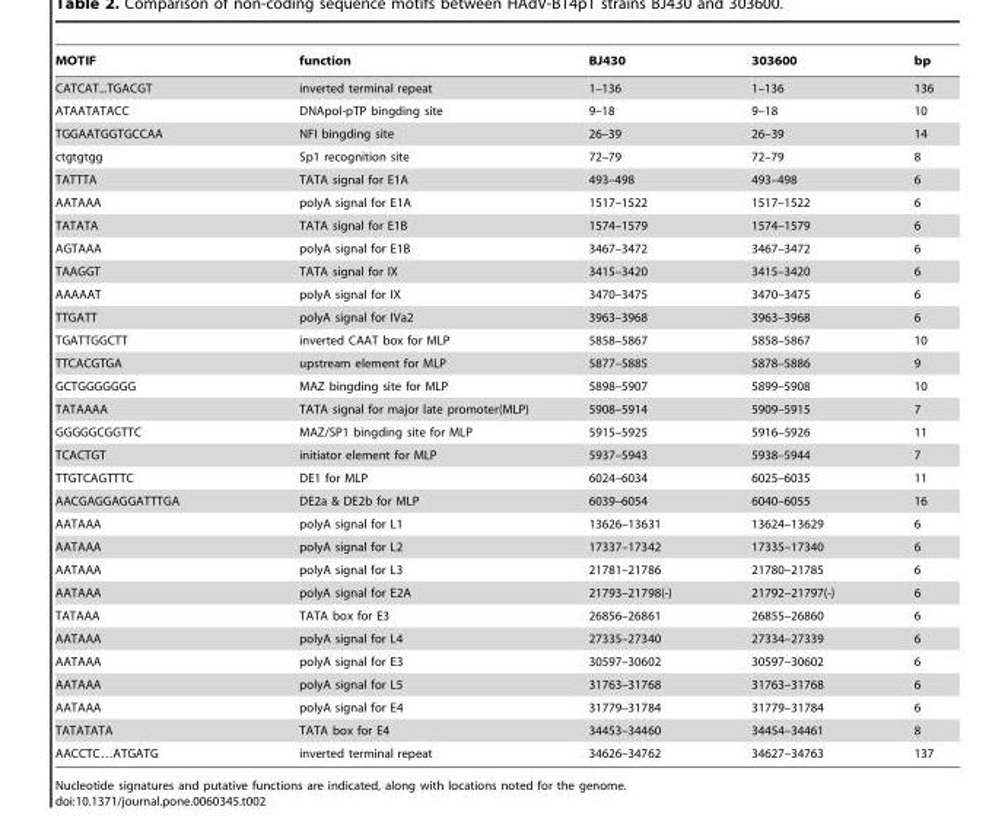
<table><thead><tr><td>MOTIF</td><td>function</td><td>BJ430</td><td>303600</td><td>bp</td></tr></thead><tbody><tr><td>CATCAT...TGACGT</td><td>inverted terminal repeat</td><td>1–136</td><td>1–136</td><td>136</td></tr><tr><td>ATAATATACC</td><td>DNApol-pTP bingding site</td><td>9–18</td><td>9–18</td><td>10</td></tr><tr><td>TGGAATGGTGCCAA</td><td>NFI bingding site</td><td>26–39</td><td>26–39</td><td>14</td></tr><tr><td>ctgtgtgg</td><td>Sp1 recognition site</td><td>72–79</td><td>72–79</td><td>8</td></tr><tr><td>TATTTA</td><td>TATA signal for E1A</td><td>493–498</td><td>493–498</td><td>6</td></tr><tr><td>AATAAA</td><td>polyA signal for E1A</td><td>1517–1522</td><td>1517–1522</td><td>6</td></tr><tr><td>TATATA</td><td>TATA signal for E1B</td><td>1574–1579</td><td>1574–1579</td><td>6</td></tr><tr><td>AGTAAA</td><td>polyA signal for E1B</td><td>3467–3472</td><td>3467–3472</td><td>6</td></tr><tr><td>TAAGGT</td><td>TATA signal for IX</td><td>3415–3420</td><td>3415–3420</td><td>6</td></tr><tr><td>AAAAAT</td><td>polyA signal for IX</td><td>3470–3475</td><td>3470–3475</td><td>6</td></tr><tr><td>TTGATT</td><td>polyA signal for IVa2</td><td>3963–3968</td><td>3963–3968</td><td>6</td></tr><tr><td>TGATTGGCTT</td><td>inverted CAAT box for MLP</td><td>5858–5867</td><td>5858–5867</td><td>10</td></tr><tr><td>TTCACGTGA</td><td>upstream element for MLP</td><td>5877–5885</td><td>5878–5886</td><td>9</td></tr><tr><td>GCTGGGGGGG</td><td>MAZ bingding site for MLP</td><td>5898–5907</td><td>5899–5908</td><td>10</td></tr><tr><td>TATAAAA</td><td>TATA signal for major late promoter(MLP)</td><td>5908–5914</td><td>5909–5915</td><td>7</td></tr><tr><td>GGGGGCGGTTC</td><td>MAZ/SP1 bingding site for MLP</td><td>5915–5925</td><td>5916–5926</td><td>11</td></tr><tr><td>TCACTGT</td><td>initiator element for MLP</td><td>5937–5943</td><td>5938–5944</td><td>7</td></tr><tr><td>TTGTCAGTTTC</td><td>DE1 for MLP</td><td>6024–6034</td><td>6025–6035</td><td>11</td></tr><tr><td>AACGAGGAGGATTTGA</td><td>DE2a &amp; DE2b for MLP</td><td>6039–6054</td><td>6040–6055</td><td>16</td></tr><tr><td>AATAAA</td><td>polyA signal for L1</td><td>13626–13631</td><td>13624–13629</td><td>6</td></tr><tr><td>AATAAA</td><td>polyA signal for L2</td><td>17337–17342</td><td>17335–17340</td><td>6</td></tr><tr><td>AATAAA</td><td>polyA signal for L3</td><td>21781–21786</td><td>21780–21785</td><td>6</td></tr><tr><td>AATAAA</td><td>polyA signal for E2A</td><td>21793–21798(-)</td><td>21792–21797(-)</td><td>6</td></tr><tr><td>TATAAA</td><td>TATA box for E3</td><td>26856–26861</td><td>26855–26860</td><td>6</td></tr><tr><td>AATAAA</td><td>polyA signal for L4</td><td>27335–27340</td><td>27334–27339</td><td>6</td></tr><tr><td>AATAAA</td><td>polyA signal for E3</td><td>30597–30602</td><td>30597–30602</td><td>6</td></tr><tr><td>AATAAA</td><td>polyA signal for L5</td><td>31763–31768</td><td>31763–31768</td><td>6</td></tr><tr><td>AATAAA</td><td>polyA signal for E4</td><td>31779–31784</td><td>31779–31784</td><td>6</td></tr><tr><td>TATATATA</td><td>TATA box for E4</td><td>34453–34460</td><td>34454–34461</td><td>8</td></tr><tr><td>AACCTC…ATGATG</td><td>inverted terminal repeat</td><td>34626–34762</td><td>34627–34763</td><td>137</td></tr></tbody></table>